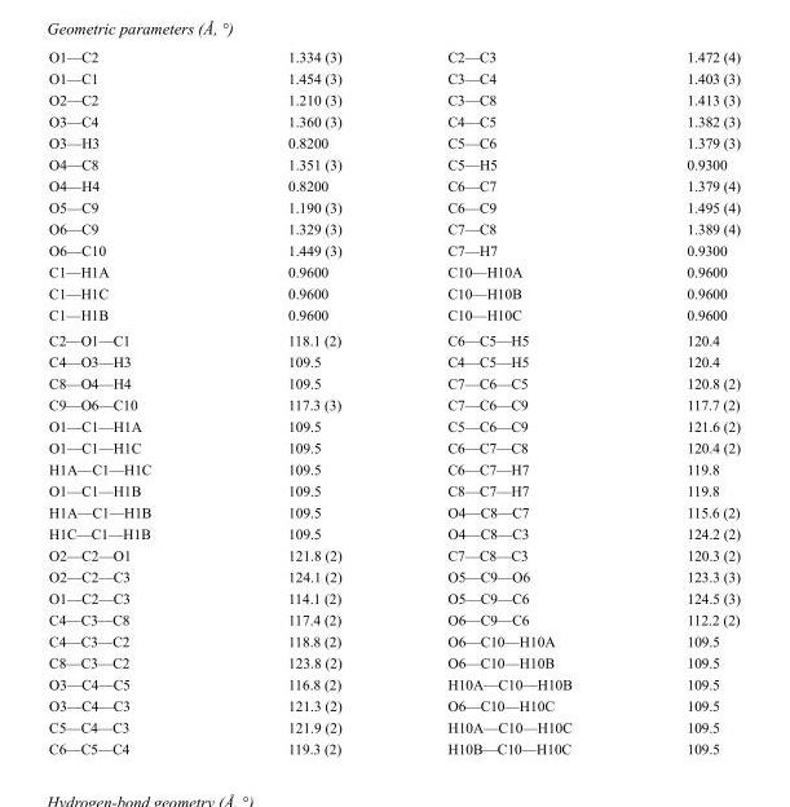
<table><tbody><tr><td>O1—C2</td><td>1.334 (3)</td><td>C2—C3</td><td>1.472 (4)</td></tr><tr><td>O1—C1</td><td>1.454 (3)</td><td>C3—C4</td><td>1.403 (3)</td></tr><tr><td>O2—C2</td><td>1.210 (3)</td><td>C3—C8</td><td>1.413 (3)</td></tr><tr><td>O3—C4</td><td>1.360 (3)</td><td>C4—C5</td><td>1.382 (3)</td></tr><tr><td>O3—H3</td><td>0.8200</td><td>C5—C6</td><td>1.379 (3)</td></tr><tr><td>O4—C8</td><td>1.351 (3)</td><td>C5—H5</td><td>0.9300</td></tr><tr><td>O4—H4</td><td>0.8200</td><td>C6—C7</td><td>1.379 (4)</td></tr><tr><td>O5—C9</td><td>1.190 (3)</td><td>C6—C9</td><td>1.495 (4)</td></tr><tr><td>O6—C9</td><td>1.329 (3)</td><td>C7—C8</td><td>1.389 (4)</td></tr><tr><td>O6—C10</td><td>1.449 (3)</td><td>C7—H7</td><td>0.9300</td></tr><tr><td>C1—H1A</td><td>0.9600</td><td>C10—H10A</td><td>0.9600</td></tr><tr><td>C1—H1C</td><td>0.9600</td><td>C10—H10B</td><td>0.9600</td></tr><tr><td>C1—H1B</td><td>0.9600</td><td>C10—H10C</td><td>0.9600</td></tr><tr><td>C2—O1—C1</td><td>118.1 (2)</td><td>C6—C5—H5</td><td>120.4</td></tr><tr><td>C4—O3—H3</td><td>109.5</td><td>C4—C5—H5</td><td>120.4</td></tr><tr><td>C8—O4—H4</td><td>109.5</td><td>C7—C6—C5</td><td>120.8 (2)</td></tr><tr><td>C9—O6—C10</td><td>117.3 (3)</td><td>C7—C6—C9</td><td>117.7 (2)</td></tr><tr><td>O1—C1—H1A</td><td>109.5</td><td>C5—C6—C9</td><td>121.6 (2)</td></tr><tr><td>O1—C1—H1C</td><td>109.5</td><td>C6—C7—C8</td><td>120.4 (2)</td></tr><tr><td>H1A—C1—H1C</td><td>109.5</td><td>C6—C7—H7</td><td>119.8</td></tr><tr><td>O1—C1—H1B</td><td>109.5</td><td>C8—C7—H7</td><td>119.8</td></tr><tr><td>H1A—C1—H1B</td><td>109.5</td><td>O4—C8—C7</td><td>115.6 (2)</td></tr><tr><td>H1C—C1—H1B</td><td>109.5</td><td>O4—C8—C3</td><td>124.2 (2)</td></tr><tr><td>O2—C2—O1</td><td>121.8 (2)</td><td>C7—C8—C3</td><td>120.3 (2)</td></tr><tr><td>O2—C2—C3</td><td>124.1 (2)</td><td>O5—C9—O6</td><td>123.3 (3)</td></tr><tr><td>O1—C2—C3</td><td>114.1 (2)</td><td>O5—C9—C6</td><td>124.5 (3)</td></tr><tr><td>C4—C3—C8</td><td>117.4 (2)</td><td>O6—C9—C6</td><td>112.2 (2)</td></tr><tr><td>C4—C3—C2</td><td>118.8 (2)</td><td>O6—C10—H10A</td><td>109.5</td></tr><tr><td>C8—C3—C2</td><td>123.8 (2)</td><td>O6—C10—H10B</td><td>109.5</td></tr><tr><td>O3—C4—C5</td><td>116.8 (2)</td><td>H10A—C10—H10B</td><td>109.5</td></tr><tr><td>O3—C4—C3</td><td>121.3 (2)</td><td>O6—C10—H10C</td><td>109.5</td></tr><tr><td>C5—C4—C3</td><td>121.9 (2)</td><td>H10A—C10—H10C</td><td>109.5</td></tr><tr><td>C6—C5—C4</td><td>119.3 (2)</td><td>H10B—C10—H10C</td><td>109.5</td></tr></tbody></table>